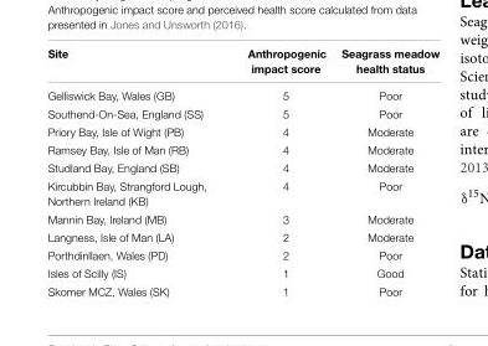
<table><thead><tr><td>Site</td><td>Anthropogenic impact score</td><td>Seagrass meadow health status</td></tr></thead><tbody><tr><td>Gelliswick Bay, Wales (GB)</td><td>5</td><td>Poor</td></tr><tr><td>Southend-On-Sea, England (SS)</td><td>5</td><td>Poor</td></tr><tr><td>Priory Bay, Isle of Wight (PB)</td><td>4</td><td>Moderate</td></tr><tr><td>Ramsey Bay, Isle of Man (RB)</td><td>4</td><td>Moderate</td></tr><tr><td>Studland Bay, England (SB)</td><td>4</td><td>Moderate</td></tr><tr><td>Kircubbin Bay, Strangford Lough, Northern Ireland (KB)</td><td>4</td><td>Poor</td></tr><tr><td>Mannin Bay, Ireland (MB)</td><td>3</td><td>Moderate</td></tr><tr><td>Langness, Isle of Man (LA)</td><td>2</td><td>Moderate</td></tr><tr><td>Porthdinllaen, Wales (PD)</td><td>2</td><td>Poor</td></tr><tr><td>Isles of Scilly (IS)</td><td>1</td><td>Good</td></tr><tr><td>Skomer MCZ, Wales (SK)</td><td>1</td><td>Poor</td></tr></tbody></table>